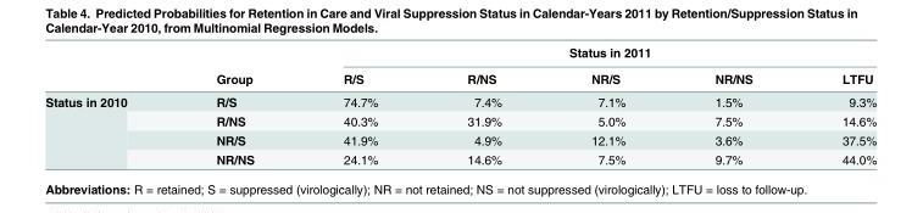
<table><thead><tr><td rowspan="2"></td><td rowspan="2">Group</td><td colspan="5">Status in 2011</td></tr><tr><td>R/S</td><td>R/NS</td><td>NR/S</td><td>NR/NS</td><td>LTFU</td></tr></thead><tbody><tr><td rowspan="4">Status in 2010</td><td>R/S</td><td>74.7%</td><td>7.4%</td><td>7.1%</td><td>1.5%</td><td>9.3%</td></tr><tr><td>R/NS</td><td>40.3%</td><td>31.9%</td><td>5.0%</td><td>7.5%</td><td>14.6%</td></tr><tr><td>NR/S</td><td>41.9%</td><td>4.9%</td><td>12.1%</td><td>3.6%</td><td>37.5%</td></tr><tr><td>NR/NS</td><td>24.1%</td><td>14.6%</td><td>7.5%</td><td>9.7%</td><td>44.0%</td></tr></tbody></table>